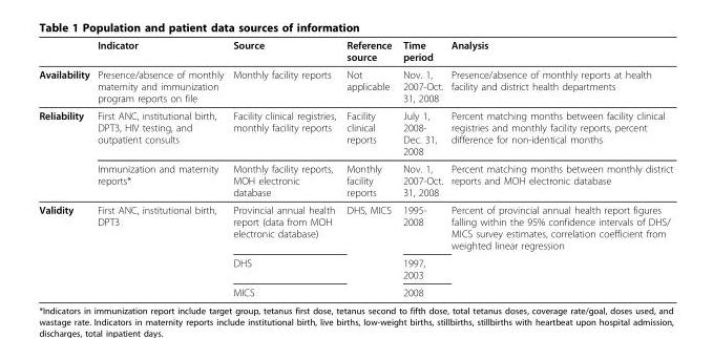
<table><thead><tr><td></td><td>Indicator</td><td>Source</td><td>Reference source</td><td>Time period</td><td>Analysis</td></tr></thead><tbody><tr><td>Availability</td><td>Presence/absence of monthly maternity and immunization program reports on file</td><td>Monthly facility reports</td><td>Not applicable</td><td>Nov. 1, 2007-Oct. 31, 2008</td><td>Presence/absence of monthly reports at health facility and district health departments</td></tr><tr><td rowspan="2">Reliability</td><td>First ANC, institutional birth, DPT3, HIV testing, and outpatient consults</td><td>Facility clinical registries, monthly facility reports</td><td>Facility clinical reports</td><td>July 1, 2008- Dec. 31, 2008</td><td>Percent matching months between facility clinical registries and monthly facility reports, percent difference for non-identical months</td></tr><tr><td>Immunization and maternity reports*</td><td>Monthly facility reports, MOH electronic database</td><td>Monthly facility reports</td><td>Nov. 1, 2007-Oct. 31, 2008</td><td>Percent matching months between monthly district reports and MOH electronic database</td></tr><tr><td rowspan="3">Validity</td><td>First ANC, institutional birth, DPT3</td><td>Provincial annual health report (data from MOH electronic database)</td><td>DHS, MICS</td><td>1995- 2008</td><td>Percent of provincial annual health report figures falling within the 95% confidence intervals of DHS/ MICS survey estimates, correlation coefficient from weighted linear regression</td></tr><tr><td></td><td>DHS</td><td></td><td>1997, 2003</td><td></td></tr><tr><td></td><td>MICS</td><td></td><td>2008</td><td></td></tr></tbody></table>